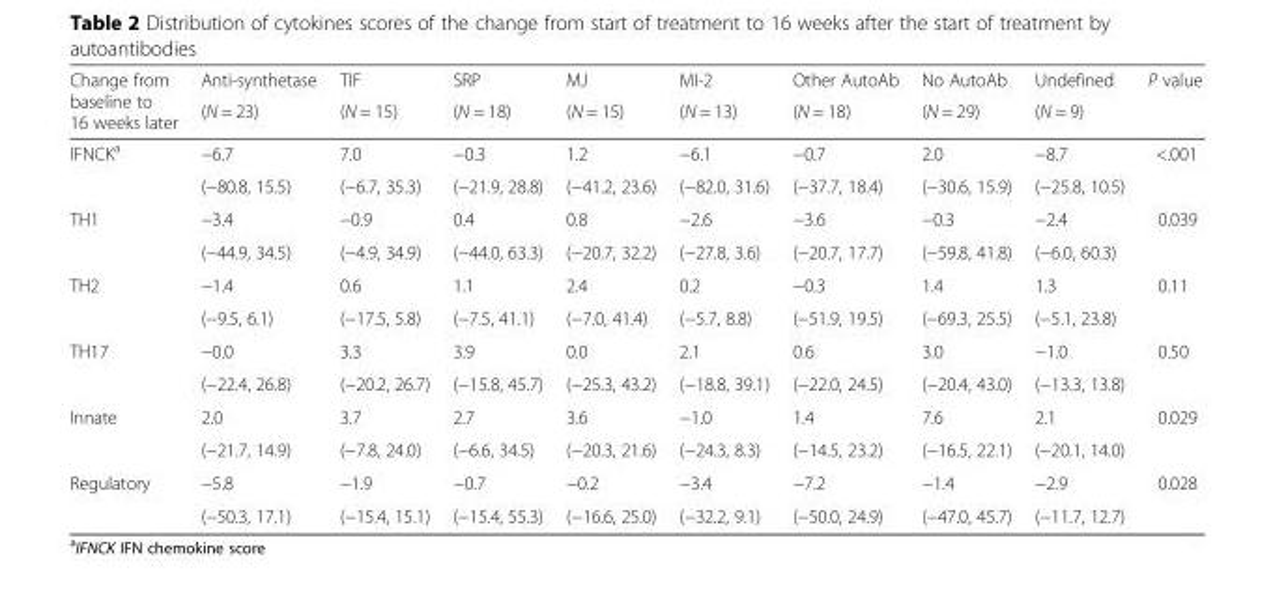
<table><thead><tr><td rowspan="2">Change from baseline to 16 weeks later</td><td rowspan="2">Anti-synthetase (N = 23)</td><td rowspan="2">TIF (N = 15)</td><td rowspan="2">SRP (N = 18)</td><td rowspan="2">MJ (N = 15)</td><td rowspan="2">MI-2 (N = 13)</td><td rowspan="2">Other AutoAb (N = 18)</td><td rowspan="2">No AutoAb (N = 29)</td><td rowspan="2">Undefined (N = 9)</td><td rowspan="2">P value</td></tr><tr></tr></thead><tbody><tr><td rowspan="2">IFNCK<sup>a</sup></td><td>−6.7</td><td>7.0</td><td>−0.3</td><td>1.2</td><td>−6.1</td><td>−0.7</td><td>2.0</td><td>−8.7</td><td rowspan="2">&lt;.001</td></tr><tr><td>(−80.8, 15.5)</td><td>(−6.7, 35.3)</td><td>(−21.9, 28.8)</td><td>(−41.2, 23.6)</td><td>(−82.0, 31.6)</td><td>(−37.7, 18.4)</td><td>(−30.6, 15.9)</td><td>(−25.8, 10.5)</td></tr><tr><td rowspan="2">TH1</td><td>−3.4</td><td>−0.9</td><td>0.4</td><td>0.8</td><td>−2.6</td><td>−3.6</td><td>−0.3</td><td>−2.4</td><td rowspan="2">0.039</td></tr><tr><td>(−44.9, 34.5)</td><td>(−4.9, 34.9)</td><td>(−44.0, 63.3)</td><td>(−20.7, 32.2)</td><td>(−27.8, 3.6)</td><td>(−20.7, 17.7)</td><td>(−59.8, 41.8)</td><td>(−6.0, 60.3)</td></tr><tr><td rowspan="2">TH2</td><td>−1.4</td><td>0.6</td><td>1.1</td><td>2.4</td><td>0.2</td><td>−0.3</td><td>1.4</td><td>1.3</td><td rowspan="2">0.11</td></tr><tr><td>(−9.5, 6.1)</td><td>(−17.5, 5.8)</td><td>(−7.5, 41.1)</td><td>(−7.0, 41.4)</td><td>(−5.7, 8.8)</td><td>(−51.9, 19.5)</td><td>(−69.3, 25.5)</td><td>(−5.1, 23.8)</td></tr><tr><td rowspan="2">TH17</td><td>−0.0</td><td>3.3</td><td>3.9</td><td>0.0</td><td>2.1</td><td>0.6</td><td>3.0</td><td>−1.0</td><td rowspan="2">0.50</td></tr><tr><td>(−22.4, 26.8)</td><td>(−20.2, 26.7)</td><td>(−15.8, 45.7)</td><td>(−25.3, 43.2)</td><td>(−18.8, 39.1)</td><td>(−22.0, 24.5)</td><td>(−20.4, 43.0)</td><td>(−13.3, 13.8)</td></tr><tr><td rowspan="2">Innate</td><td>2.0</td><td>3.7</td><td>2.7</td><td>3.6</td><td>−1.0</td><td>1.4</td><td>7.6</td><td>2.1</td><td rowspan="2">0.029</td></tr><tr><td>(−21.7, 14.9)</td><td>(−7.8, 24.0)</td><td>(−6.6, 34.5)</td><td>(−20.3, 21.6)</td><td>(−24.3, 8.3)</td><td>(−14.5, 23.2)</td><td>(−16.5, 22.1)</td><td>(−20.1, 14.0)</td></tr><tr><td rowspan="2">Regulatory</td><td>−5.8</td><td>−1.9</td><td>−0.7</td><td>−0.2</td><td>−3.4</td><td>−7.2</td><td>−1.4</td><td>−2.9</td><td rowspan="2">0.028</td></tr><tr><td>(−50.3, 17.1)</td><td>(−15.4, 15.1)</td><td>(−15.4, 55.3)</td><td>(−16.6, 25.0)</td><td>(−32.2, 9.1)</td><td>(−50.0, 24.9)</td><td>(−47.0, 45.7)</td><td>(−11.7, 12.7)</td></tr></tbody></table>